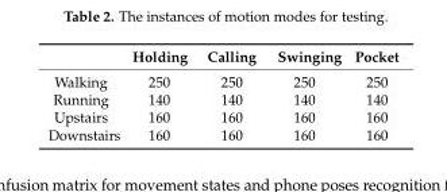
<table><thead><tr><td></td><td>Holding</td><td>Calling</td><td>Swinging</td><td>Pocket</td></tr></thead><tbody><tr><td>Walking</td><td>250</td><td>250</td><td>250</td><td>250</td></tr><tr><td>Running</td><td>140</td><td>140</td><td>140</td><td>140</td></tr><tr><td>Upstairs</td><td>160</td><td>160</td><td>160</td><td>160</td></tr><tr><td>Downstairs</td><td>160</td><td>160</td><td>160</td><td>160</td></tr></tbody></table>